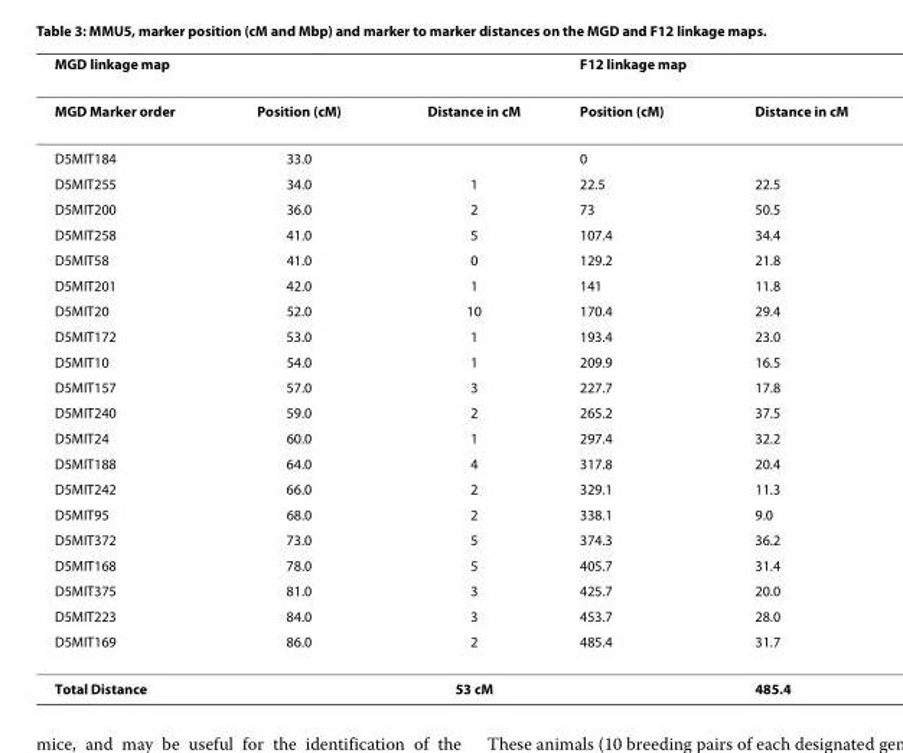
<table><thead><tr><td colspan="3">MGD linkage map</td><td colspan="2">F12 linkage map</td></tr><tr><td>MGD Marker order</td><td>Position (cM)</td><td>Distance in cM</td><td>Position (cM)</td><td>Distance in cM</td></tr></thead><tbody><tr><td>D5MIT184</td><td>33.0</td><td></td><td>0</td><td></td></tr><tr><td>D5MIT255</td><td>34.0</td><td>1</td><td>22.5</td><td>22.5</td></tr><tr><td>D5MIT200</td><td>36.0</td><td>2</td><td>73</td><td>50.5</td></tr><tr><td>D5MIT258</td><td>41.0</td><td>5</td><td>107.4</td><td>34.4</td></tr><tr><td>D5MIT58</td><td>41.0</td><td>0</td><td>129.2</td><td>21.8</td></tr><tr><td>D5MIT201</td><td>42.0</td><td>1</td><td>141</td><td>11.8</td></tr><tr><td>D5MIT20</td><td>52.0</td><td>10</td><td>170.4</td><td>29.4</td></tr><tr><td>D5MIT172</td><td>53.0</td><td>1</td><td>193.4</td><td>23.0</td></tr><tr><td>D5MIT10</td><td>54.0</td><td>1</td><td>209.9</td><td>16.5</td></tr><tr><td>D5MIT157</td><td>57.0</td><td>3</td><td>227.7</td><td>17.8</td></tr><tr><td>D5MIT240</td><td>59.0</td><td>2</td><td>265.2</td><td>37.5</td></tr><tr><td>D5MIT24</td><td>60.0</td><td>1</td><td>297.4</td><td>32.2</td></tr><tr><td>D5MIT188</td><td>64.0</td><td>4</td><td>317.8</td><td>20.4</td></tr><tr><td>D5MIT242</td><td>66.0</td><td>2</td><td>329.1</td><td>11.3</td></tr><tr><td>D5MIT95</td><td>68.0</td><td>2</td><td>338.1</td><td>9.0</td></tr><tr><td>D5MIT372</td><td>73.0</td><td>5</td><td>374.3</td><td>36.2</td></tr><tr><td>D5MIT168</td><td>78.0</td><td>5</td><td>405.7</td><td>31.4</td></tr><tr><td>D5MIT375</td><td>81.0</td><td>3</td><td>425.7</td><td>20.0</td></tr><tr><td>D5MIT223</td><td>84.0</td><td>3</td><td>453.7</td><td>28.0</td></tr><tr><td>D5MIT169</td><td>86.0</td><td>2</td><td>485.4</td><td>31.7</td></tr><tr><td>Total Distance</td><td></td><td>53 cM</td><td></td><td>485.4</td></tr></tbody></table>